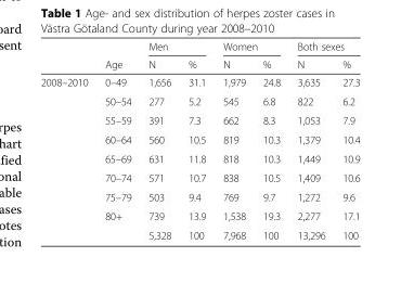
<table><thead><tr><td rowspan="2"></td><td rowspan="2">Age</td><td colspan="2">Men</td><td colspan="2">Women</td><td colspan="2">Both sexes</td></tr><tr><td>N</td><td>%</td><td>N</td><td>%</td><td>N</td><td>%</td></tr></thead><tbody><tr><td rowspan="9">2008–2010</td><td>0–49</td><td>1,656</td><td>31.1</td><td>1,979</td><td>24.8</td><td>3,635</td><td>27.3</td></tr><tr><td>50–54</td><td>277</td><td>5.2</td><td>545</td><td>6.8</td><td>822</td><td>6.2</td></tr><tr><td>55–59</td><td>391</td><td>7.3</td><td>662</td><td>8.3</td><td>1,053</td><td>7.9</td></tr><tr><td>60–64</td><td>560</td><td>10.5</td><td>819</td><td>10.3</td><td>1,379</td><td>10.4</td></tr><tr><td>65–69</td><td>631</td><td>11.8</td><td>818</td><td>10.3</td><td>1,449</td><td>10.9</td></tr><tr><td>70–74</td><td>571</td><td>10.7</td><td>838</td><td>10.5</td><td>1,409</td><td>10.6</td></tr><tr><td>75–79</td><td>503</td><td>9.4</td><td>769</td><td>9.7</td><td>1,272</td><td>9.6</td></tr><tr><td>80+</td><td>739</td><td>13.9</td><td>1,538</td><td>19.3</td><td>2,277</td><td>17.1</td></tr><tr><td></td><td>5,328</td><td>100</td><td>7,968</td><td>100</td><td>13,296</td><td>100</td></tr></tbody></table>